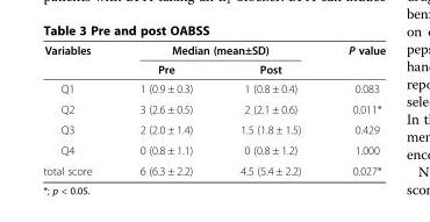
<table><thead><tr><td rowspan="2">Variables</td><td colspan="2">Median (mean±SD)</td><td rowspan="2">P value</td></tr><tr><td>Pre</td><td>Post</td></tr></thead><tbody><tr><td>Q1</td><td>1 (0.9 ± 0.3)</td><td>1 (0.8 ± 0.4)</td><td>0.083</td></tr><tr><td>Q2</td><td>3 (2.6 ± 0.5)</td><td>2 (2.1 ± 0.6)</td><td>0.011*</td></tr><tr><td>Q3</td><td>2 (2.0 ± 1.4)</td><td>1.5 (1.8 ± 1.5)</td><td>0.429</td></tr><tr><td>Q4</td><td>0 (0.8 ± 1.1)</td><td>0 (0.8 ± 1.2)</td><td>1.000</td></tr><tr><td>total score</td><td>6 (6.3 ± 2.2)</td><td>4.5 (5.4 ± 2.2)</td><td>0.027*</td></tr></tbody></table>